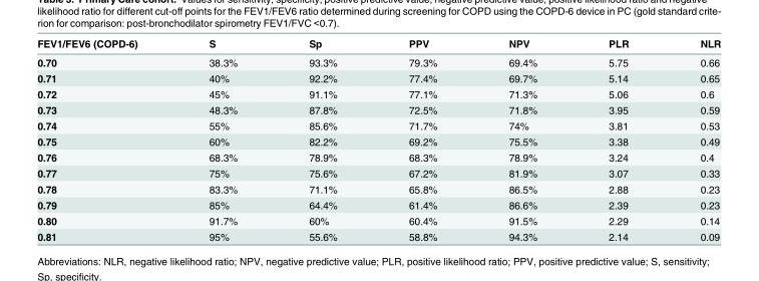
<table><thead><tr><td>FEV1/FEV6 (COPD-6)</td><td>S</td><td>Sp</td><td>PPV</td><td>NPV</td><td>PLR</td><td>NLR</td></tr></thead><tbody><tr><td>0.70</td><td>38.3%</td><td>93.3%</td><td>79.3%</td><td>69.4%</td><td>5.75</td><td>0.66</td></tr><tr><td>0.71</td><td>40%</td><td>92.2%</td><td>77.4%</td><td>69.7%</td><td>5.14</td><td>0.65</td></tr><tr><td>0.72</td><td>45%</td><td>91.1%</td><td>77.1%</td><td>71.3%</td><td>5.06</td><td>0.6</td></tr><tr><td>0.73</td><td>48.3%</td><td>87.8%</td><td>72.5%</td><td>71.8%</td><td>3.95</td><td>0.59</td></tr><tr><td>0.74</td><td>55%</td><td>85.6%</td><td>71.7%</td><td>74%</td><td>3.81</td><td>0.53</td></tr><tr><td>0.75</td><td>60%</td><td>82.2%</td><td>69.2%</td><td>75.5%</td><td>3.38</td><td>0.49</td></tr><tr><td>0.76</td><td>68.3%</td><td>78.9%</td><td>68.3%</td><td>78.9%</td><td>3.24</td><td>0.4</td></tr><tr><td>0.77</td><td>75%</td><td>75.6%</td><td>67.2%</td><td>81.9%</td><td>3.07</td><td>0.33</td></tr><tr><td>0.78</td><td>83.3%</td><td>71.1%</td><td>65.8%</td><td>86.5%</td><td>2.88</td><td>0.23</td></tr><tr><td>0.79</td><td>85%</td><td>64.4%</td><td>61.4%</td><td>86.6%</td><td>2.39</td><td>0.23</td></tr><tr><td>0.80</td><td>91.7%</td><td>60%</td><td>60.4%</td><td>91.5%</td><td>2.29</td><td>0.14</td></tr><tr><td>0.81</td><td>95%</td><td>55.6%</td><td>58.8%</td><td>94.3%</td><td>2.14</td><td>0.09</td></tr></tbody></table>